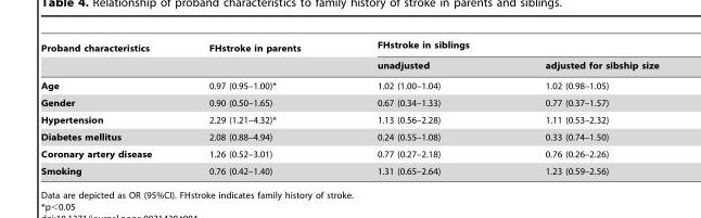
<table><thead><tr><td rowspan="2">Proband characteristics</td><td rowspan="2">FHstroke in parents</td><td colspan="2">FHstroke in siblings</td></tr><tr><td>unadjusted</td><td>adjusted for sibship size</td></tr></thead><tbody><tr><td>Age</td><td>0.97 (0.95–1.00)*</td><td>1.02 (1.00–1.04)</td><td>1.02 (0.98–1.05)</td></tr><tr><td>Gender</td><td>0.90 (0.50–1.65)</td><td>0.67 (0.34–1.33)</td><td>0.77 (0.37–1.57)</td></tr><tr><td>Hypertension</td><td>2.29 (1.21–4.32)*</td><td>1.13 (0.56–2.28)</td><td>1.11 (0.53–2.32)</td></tr><tr><td>Diabetes mellitus</td><td>2.08 (0.88–4.94)</td><td>0.24 (0.55–1.08)</td><td>0.33 (0.74–1.50)</td></tr><tr><td>Coronary artery disease</td><td>1.26 (0.52–3.01)</td><td>0.77 (0.27–2.18)</td><td>0.76 (0.26–2.26)</td></tr><tr><td>Smoking</td><td>0.76 (0.42–1.40)</td><td>1.31 (0.65–2.64)</td><td>1.23 (0.59–2.56)</td></tr></tbody></table>